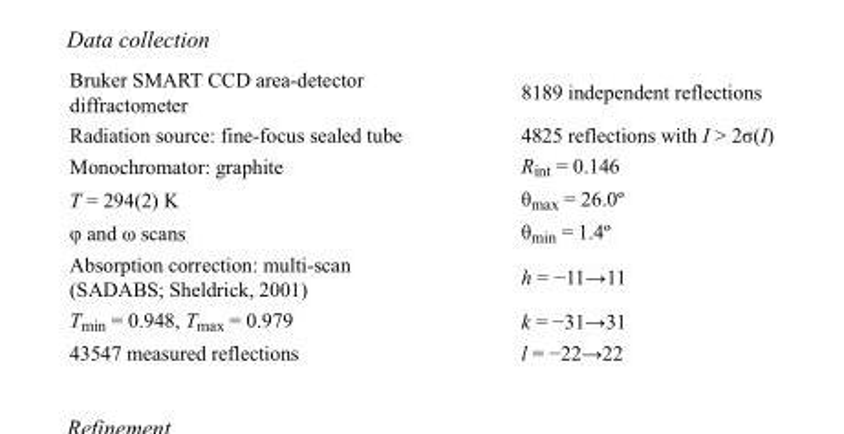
<table><tbody><tr><td>Bruker SMART CCD area-detector diffractometer</td><td>8189 independent reflections</td></tr><tr><td>Radiation source: fine-focus sealed tube</td><td>4825 reflections with I &gt; 2σ(I)</td></tr><tr><td>Monochromator: graphite</td><td>R<sub>int</sub> = 0.146</td></tr><tr><td>T = 294(2) K</td><td>θ<sub>max</sub> = 26.0º</td></tr><tr><td>φ and ω scans</td><td>θ<sub>min</sub> = 1.4º</td></tr><tr><td>Absorption correction: multi-scan (SADABS; Sheldrick, 2001)</td><td>h = −11→11</td></tr><tr><td>T<sub>min</sub> = 0.948, T<sub>max</sub> = 0.979</td><td>k = −31→31</td></tr><tr><td>43547 measured reflections</td><td>l = −22→22</td></tr></tbody></table>